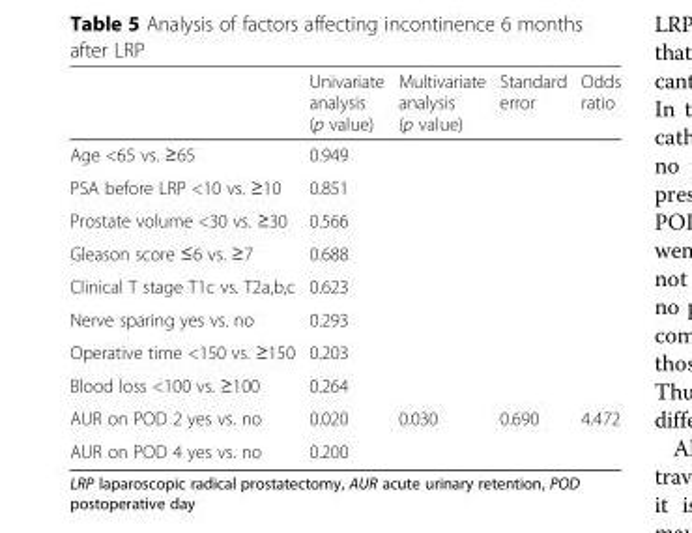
<table><thead><tr><td></td><td>Univariate analysis (p value)</td><td>Multivariate analysis (p value)</td><td>Standard error</td><td>Odds ratio</td></tr></thead><tbody><tr><td>Age &lt;65 vs. ≥65</td><td>0.949</td><td></td><td></td><td></td></tr><tr><td>PSA before LRP &lt;10 vs. ≥10</td><td>0.851</td><td></td><td></td><td></td></tr><tr><td>Prostate volume &lt;30 vs. ≥30</td><td>0.566</td><td></td><td></td><td></td></tr><tr><td>Gleason score ≤6 vs. ≥7</td><td>0.688</td><td></td><td></td><td></td></tr><tr><td>Clinical T stage T1c vs. T2a,b,c</td><td>0.623</td><td></td><td></td><td></td></tr><tr><td>Nerve sparing yes vs. no</td><td>0.293</td><td></td><td></td><td></td></tr><tr><td>Operative time &lt;150 vs. ≥150</td><td>0.203</td><td></td><td></td><td></td></tr><tr><td>Blood loss &lt;100 vs. ≥100</td><td>0.264</td><td></td><td></td><td></td></tr><tr><td>AUR on POD 2 yes vs. no</td><td>0.020</td><td>0.030</td><td>0.690</td><td>4.472</td></tr><tr><td>AUR on POD 4 yes vs. no</td><td>0.200</td><td></td><td></td><td></td></tr></tbody></table>